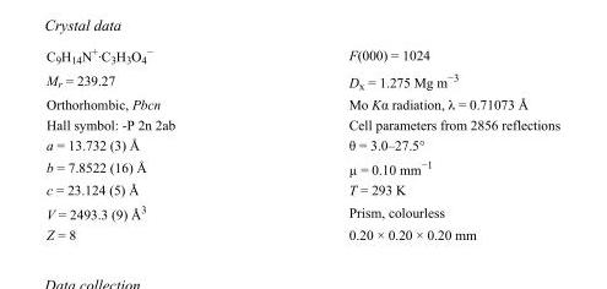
<table><tbody><tr><td>C<sub>9</sub>H<sub>14</sub>N<sup>+</sup>·C<sub>3</sub>H<sub>3</sub>O<sub>4</sub> <sup>−</sup></td><td>F(000) = 1024</td></tr><tr><td>M<sub>r</sub> = 239.27</td><td>D<sub>x</sub> = 1.275 Mg m<sup>−3</sup></td></tr><tr><td>Orthorhombic, Pbcn</td><td>Mo Kα radiation, λ = 0.71073 Å</td></tr><tr><td>Hall symbol: -P 2n 2ab</td><td>Cell parameters from 2856 reflections</td></tr><tr><td>a = 13.732 (3) Å</td><td>θ = 3.0–27.5°</td></tr><tr><td>b = 7.8522 (16) Å</td><td>µ = 0.10 mm<sup>−1</sup></td></tr><tr><td>c = 23.124 (5) Å</td><td>T = 293 K</td></tr><tr><td>V = 2493.3 (9) Å<sup>3</sup></td><td>Prism, colourless</td></tr><tr><td>Z = 8</td><td>0.20 × 0.20 × 0.20 mm</td></tr></tbody></table>